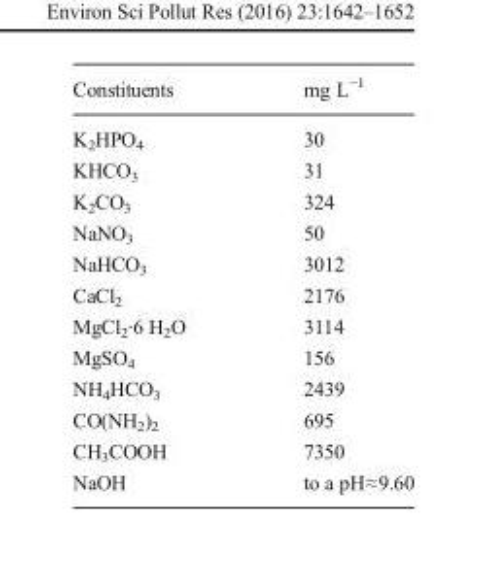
<table><thead><tr><td>Constituents</td><td>mg L<sup>−1</sup></td></tr></thead><tbody><tr><td>K<sub>2</sub>HPO<sub>4</sub></td><td>30</td></tr><tr><td>KHCO<sub>3</sub></td><td>31</td></tr><tr><td>K<sub>2</sub>CO<sub>3</sub></td><td>324</td></tr><tr><td>NaNO<sub>3</sub></td><td>50</td></tr><tr><td>NaHCO<sub>3</sub></td><td>3012</td></tr><tr><td>CaCl<sub>2</sub></td><td>2176</td></tr><tr><td>MgCl<sub>2</sub>·6 H<sub>2</sub>O</td><td>3114</td></tr><tr><td>MgSO<sub>4</sub></td><td>156</td></tr><tr><td>NH<sub>4</sub>HCO<sub>3</sub></td><td>2439</td></tr><tr><td>CO(NH<sub>2</sub>)<sub>2</sub></td><td>695</td></tr><tr><td>CH<sub>3</sub>COOH</td><td>7350</td></tr><tr><td>NaOH</td><td>to a pH≈9.60</td></tr></tbody></table>